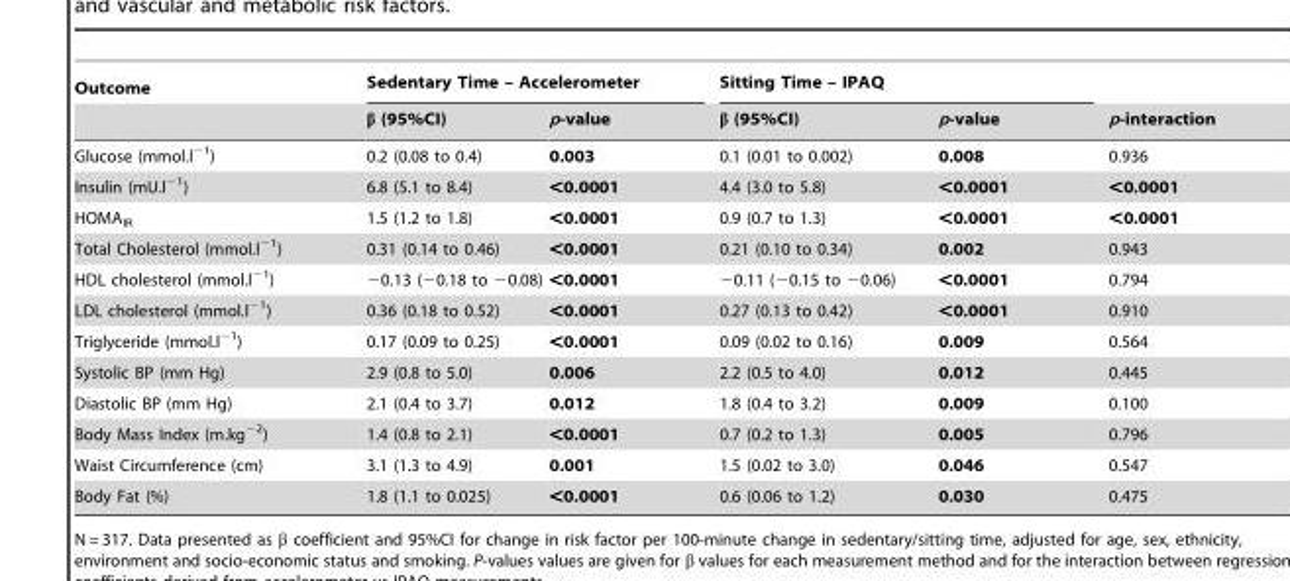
<table><thead><tr><td rowspan="2">Outcome</td><td colspan="2">Sedentary Time – Accelerometer</td><td colspan="2">Sitting Time – IPAQ</td><td rowspan="2">p-interaction</td></tr><tr><td>β (95%CI)</td><td>p-value</td><td>β (95%CI)</td><td>p-value</td></tr></thead><tbody><tr><td>Glucose (mmol.l<sup>−1</sup>)</td><td>0.2 (0.08 to 0.4)</td><td>0.003</td><td>0.1 (0.01 to 0.002)</td><td>0.008</td><td>0.936</td></tr><tr><td>Insulin (mU.l<sup>−1</sup>)</td><td>6.8 (5.1 to 8.4)</td><td>&lt;0.0001</td><td>4.4 (3.0 to 5.8)</td><td>&lt;0.0001</td><td>&lt;0.0001</td></tr><tr><td>HOMA<sub>IR</sub></td><td>1.5 (1.2 to 1.8)</td><td>&lt;0.0001</td><td>0.9 (0.7 to 1.3)</td><td>&lt;0.0001</td><td>&lt;0.0001</td></tr><tr><td>Total Cholesterol (mmol.l<sup>−1</sup>)</td><td>0.31 (0.14 to 0.46)</td><td>&lt;0.0001</td><td>0.21 (0.10 to 0.34)</td><td>0.002</td><td>0.943</td></tr><tr><td>HDL cholesterol (mmol.l<sup>−1</sup>)</td><td>−0.13 (−0.18 to −0.08)</td><td>&lt;0.0001</td><td>−0.11 (−0.15 to −0.06)</td><td>&lt;0.0001</td><td>0.794</td></tr><tr><td>LDL cholesterol (mmol.l<sup>−1</sup>)</td><td>0.36 (0.18 to 0.52)</td><td>&lt;0.0001</td><td>0.27 (0.13 to 0.42)</td><td>&lt;0.0001</td><td>0.910</td></tr><tr><td>Triglyceride (mmol.l<sup>−1</sup>)</td><td>0.17 (0.09 to 0.25)</td><td>&lt;0.0001</td><td>0.09 (0.02 to 0.16)</td><td>0.009</td><td>0.564</td></tr><tr><td>Systolic BP (mm Hg)</td><td>2.9 (0.8 to 5.0)</td><td>0.006</td><td>2.2 (0.5 to 4.0)</td><td>0.012</td><td>0.445</td></tr><tr><td>Diastolic BP (mm Hg)</td><td>2.1 (0.4 to 3.7)</td><td>0.012</td><td>1.8 (0.4 to 3.2)</td><td>0.009</td><td>0.100</td></tr><tr><td>Body Mass Index (m.kg<sup>−2</sup>)</td><td>1.4 (0.8 to 2.1)</td><td>&lt;0.0001</td><td>0.7 (0.2 to 1.3)</td><td>0.005</td><td>0.796</td></tr><tr><td>Waist Circumference (cm)</td><td>3.1 (1.3 to 4.9)</td><td>0.001</td><td>1.5 (0.02 to 3.0)</td><td>0.046</td><td>0.547</td></tr><tr><td>Body Fat (%)</td><td>1.8 (1.1 to 0.025)</td><td>&lt;0.0001</td><td>0.6 (0.06 to 1.2)</td><td>0.030</td><td>0.475</td></tr></tbody></table>